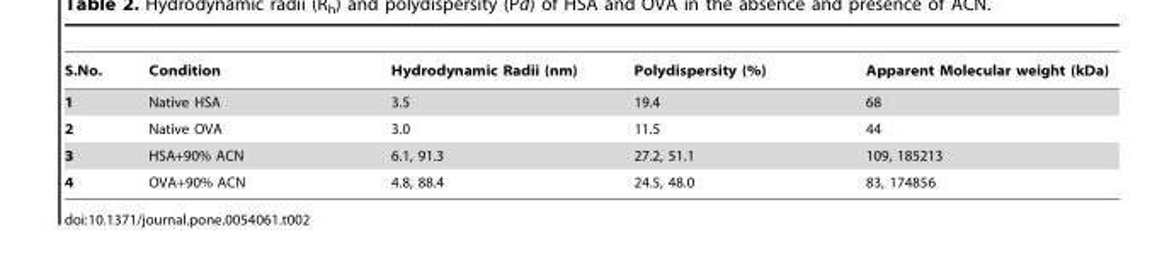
<table><thead><tr><td>S.No.</td><td>Condition</td><td>Hydrodynamic Radii (nm)</td><td>Polydispersity (%)</td><td>Apparent Molecular weight (kDa)</td></tr></thead><tbody><tr><td>1</td><td>Native HSA</td><td>3.5</td><td>19.4</td><td>68</td></tr><tr><td>2</td><td>Native OVA</td><td>3.0</td><td>11.5</td><td>44</td></tr><tr><td>3</td><td>HSA+90% ACN</td><td>6.1, 91.3</td><td>27.2, 51.1</td><td>109, 185213</td></tr><tr><td>4</td><td>OVA+90% ACN</td><td>4.8, 88.4</td><td>24.5, 48.0</td><td>83, 174856</td></tr></tbody></table>